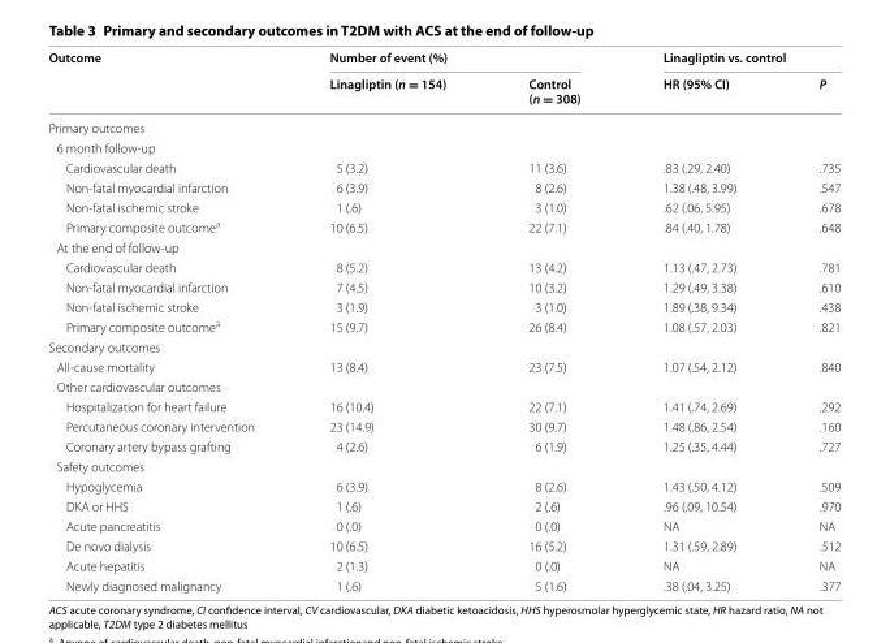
<table><thead><tr><td rowspan="2">Outcome</td><td colspan="2">Number of event (%)</td><td colspan="2">Linagliptin vs. control</td></tr><tr><td>Linagliptin (n = 154)</td><td>Control (n = 308)</td><td>HR (95% CI)</td><td>P</td></tr></thead><tbody><tr><td colspan="5">Primary outcomes</td></tr><tr><td colspan="5">6 month follow‑up</td></tr><tr><td>Cardiovascular death</td><td>5 (3.2)</td><td>11 (3.6)</td><td>.83 (.29, 2.40)</td><td>.735</td></tr><tr><td>Non‑fatal myocardial infarction</td><td>6 (3.9)</td><td>8 (2.6)</td><td>1.38 (.48, 3.99)</td><td>.547</td></tr><tr><td>Non‑fatal ischemic stroke</td><td>1 (.6)</td><td>3 (1.0)</td><td>.62 (.06, 5.95)</td><td>.678</td></tr><tr><td>Primary composite outcome<sup>a</sup></td><td>10 (6.5)</td><td>22 (7.1)</td><td>.84 (.40, 1.78)</td><td>.648</td></tr><tr><td colspan="5">At the end of follow‑up</td></tr><tr><td>Cardiovascular death</td><td>8 (5.2)</td><td>13 (4.2)</td><td>1.13 (.47, 2.73)</td><td>.781</td></tr><tr><td>Non‑fatal myocardial infarction</td><td>7 (4.5)</td><td>10 (3.2)</td><td>1.29 (.49, 3.38)</td><td>.610</td></tr><tr><td>Non‑fatal ischemic stroke</td><td>3 (1.9)</td><td>3 (1.0)</td><td>1.89 (.38, 9.34)</td><td>.438</td></tr><tr><td>Primary composite outcome<sup>a</sup></td><td>15 (9.7)</td><td>26 (8.4)</td><td>1.08 (.57, 2.03)</td><td>.821</td></tr><tr><td colspan="5">Secondary outcomes</td></tr><tr><td>All‑cause mortality</td><td>13 (8.4)</td><td>23 (7.5)</td><td>1.07 (.54, 2.12)</td><td>.840</td></tr><tr><td colspan="5">Other cardiovascular outcomes</td></tr><tr><td>Hospitalization for heart failure</td><td>16 (10.4)</td><td>22 (7.1)</td><td>1.41 (.74, 2.69)</td><td>.292</td></tr><tr><td>Percutaneous coronary intervention</td><td>23 (14.9)</td><td>30 (9.7)</td><td>1.48 (.86, 2.54)</td><td>.160</td></tr><tr><td>Coronary artery bypass grafting</td><td>4 (2.6)</td><td>6 (1.9)</td><td>1.25 (.35, 4.44)</td><td>.727</td></tr><tr><td colspan="5">Safety outcomes</td></tr><tr><td>Hypoglycemia</td><td>6 (3.9)</td><td>8 (2.6)</td><td>1.43 (.50, 4.12)</td><td>.509</td></tr><tr><td>DKA or HHS</td><td>1 (.6)</td><td>2 (.6)</td><td>.96 (.09, 10.54)</td><td>.970</td></tr><tr><td>Acute pancreatitis</td><td>0 (.0)</td><td>0 (.0)</td><td>NA</td><td>NA</td></tr><tr><td>De novo dialysis</td><td>10 (6.5)</td><td>16 (5.2)</td><td>1.31 (.59, 2.89)</td><td>.512</td></tr><tr><td>Acute hepatitis</td><td>2 (1.3)</td><td>0 (.0)</td><td>NA</td><td>NA</td></tr><tr><td>Newly diagnosed malignancy</td><td>1 (.6)</td><td>5 (1.6)</td><td>.38 (.04, 3.25)</td><td>.377</td></tr></tbody></table>